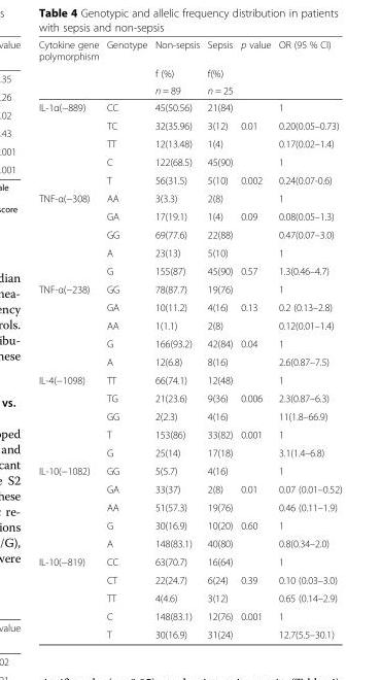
<table><thead><tr><td rowspan="3">Cytokine gene polymorphism</td><td rowspan="3">Genotype</td><td rowspan="3">Non-sepsis f (%) n = 89</td><td rowspan="3">Sepsis f(%) n = 25</td><td rowspan="3">p value</td><td rowspan="3">OR (95 % CI)</td></tr><tr></tr><tr></tr></thead><tbody><tr><td rowspan="5">IL-1α(−889)</td><td>CC</td><td>45(50.56)</td><td>21(84)</td><td></td><td>1</td></tr><tr><td>TC</td><td>32(35.96)</td><td>3(12)</td><td>0.01</td><td>0.20(0.05–0.73)</td></tr><tr><td>TT</td><td>12(13.48)</td><td>1(4)</td><td></td><td>0.17(0.02–1.4)</td></tr><tr><td>C</td><td>122(68.5)</td><td>45(90)</td><td></td><td>1</td></tr><tr><td>T</td><td>56(31.5)</td><td>5(10)</td><td>0.002</td><td>0.24(0.07-0.6)</td></tr><tr><td rowspan="5">TNF-α(−308)</td><td>AA</td><td>3(3.3)</td><td>2(8)</td><td></td><td>1</td></tr><tr><td>GA</td><td>17(19.1)</td><td>1(4)</td><td>0.09</td><td>0.08(0.05–1.3)</td></tr><tr><td>GG</td><td>69(77.6)</td><td>22(88)</td><td></td><td>0.47(0.07–3.0)</td></tr><tr><td>A</td><td>23(13)</td><td>5(10)</td><td></td><td>1</td></tr><tr><td>G</td><td>155(87)</td><td>45(90)</td><td>0.57</td><td>1.3(0.46–4.7)</td></tr><tr><td rowspan="5">TNF-α(−238)</td><td>GG</td><td>78(87.7)</td><td>19(76)</td><td></td><td>1</td></tr><tr><td>GA</td><td>10(11.2)</td><td>4(16)</td><td>0.13</td><td>0.2 (0.13–2.8)</td></tr><tr><td>AA</td><td>1(1.1)</td><td>2(8)</td><td></td><td>0.12(0.01–1.4)</td></tr><tr><td>G</td><td>166(93.2)</td><td>42(84)</td><td>0.04</td><td>1</td></tr><tr><td>A</td><td>12(6.8)</td><td>8(16)</td><td></td><td>2.6(0.87–7.5)</td></tr><tr><td rowspan="5">IL-4(−1098)</td><td>TT</td><td>66(74.1)</td><td>12(48)</td><td></td><td>1</td></tr><tr><td>TG</td><td>21(23.6)</td><td>9(36)</td><td>0.006</td><td>2.3(0.87–6.3)</td></tr><tr><td>GG</td><td>2(2.3)</td><td>4(16)</td><td></td><td>11(1.8–66.9)</td></tr><tr><td>T</td><td>153(86)</td><td>33(82)</td><td>0.001</td><td>1</td></tr><tr><td>G</td><td>25(14)</td><td>17(18)</td><td></td><td>3.1(1.4–6.8)</td></tr><tr><td rowspan="5">IL-10(−1082)</td><td>GG</td><td>5(5.7)</td><td>4(16)</td><td></td><td>1</td></tr><tr><td>GA</td><td>33(37)</td><td>2(8)</td><td>0.01</td><td>0.07 (0.01–0.52)</td></tr><tr><td>AA</td><td>51(57.3)</td><td>19(76)</td><td></td><td>0.46 (0.11–1.9)</td></tr><tr><td>G</td><td>30(16.9)</td><td>10(20)</td><td>0.60</td><td>1</td></tr><tr><td>A</td><td>148(83.1)</td><td>40(80)</td><td></td><td>0.8(0.34–2.0)</td></tr><tr><td rowspan="5">IL-10(−819)</td><td>CC</td><td>63(70.7)</td><td>16(64)</td><td></td><td>1</td></tr><tr><td>CT</td><td>22(24.7)</td><td>6(24)</td><td>0.39</td><td>0.10 (0.03–3.0)</td></tr><tr><td>TT</td><td>4(4.6)</td><td>3(12)</td><td></td><td>0.65 (0.14–2.9)</td></tr><tr><td>C</td><td>148(83.1)</td><td>12(76)</td><td>0.001</td><td>1</td></tr><tr><td>T</td><td>30(16.9)</td><td>31(24)</td><td></td><td>12.7(5.5–30.1)</td></tr></tbody></table>